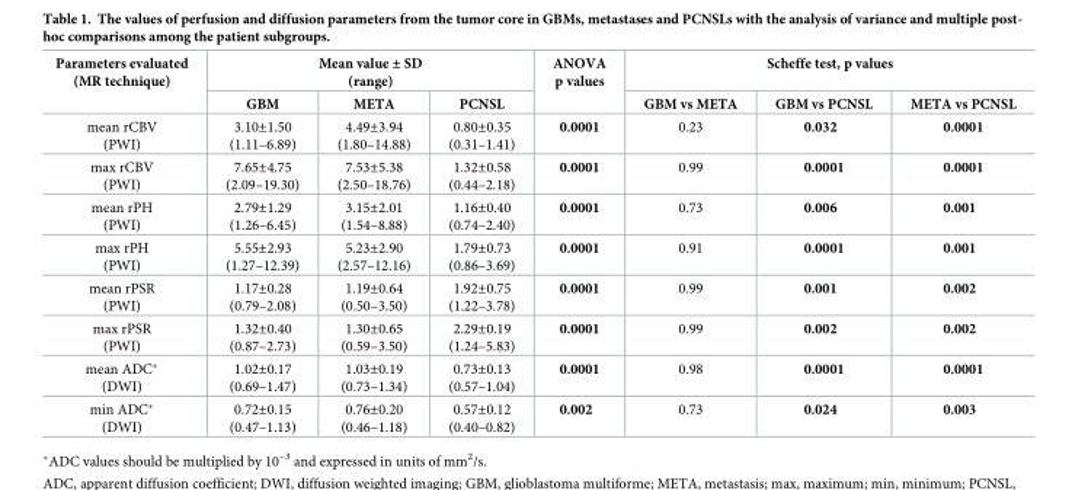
<table><thead><tr><td rowspan="2">Parameters evaluated (MR technique)</td><td colspan="3">Mean value ± SD (range)</td><td rowspan="2">ANOVA p values</td><td colspan="3">Scheffe test, p values</td></tr><tr><td>GBM</td><td>META</td><td>PCNSL</td><td>GBM vs META</td><td>GBM vs PCNSL</td><td>META vs PCNSL</td></tr></thead><tbody><tr><td>mean rCBV (PWI)</td><td>3.10±1.50 (1.11–6.89)</td><td>4.49±3.94 (1.80–14.88)</td><td>0.80±0.35 (0.31–1.41)</td><td>0.0001</td><td>0.23</td><td>0.032</td><td>0.0001</td></tr><tr><td>max rCBV (PWI)</td><td>7.65±4.75 (2.09–19.30)</td><td>7.53±5.38 (2.50–18.76)</td><td>1.32±0.58 (0.44–2.18)</td><td>0.0001</td><td>0.99</td><td>0.0001</td><td>0.0001</td></tr><tr><td>mean rPH (PWI)</td><td>2.79±1.29 (1.26–6.45)</td><td>3.15±2.01 (1.54–8.88)</td><td>1.16±0.40 (0.74–2.40)</td><td>0.0001</td><td>0.73</td><td>0.006</td><td>0.001</td></tr><tr><td>max rPH (PWI)</td><td>5.55±2.93 (1.27–12.39)</td><td>5.23±2.90 (2.57–12.16)</td><td>1.79±0.73 (0.86–3.69)</td><td>0.0001</td><td>0.91</td><td>0.0001</td><td>0.001</td></tr><tr><td>mean rPSR (PWI)</td><td>1.17±0.28 (0.79–2.08)</td><td>1.19±0.64 (0.50–3.50)</td><td>1.92±0.75 (1.22–3.78)</td><td>0.0001</td><td>0.99</td><td>0.001</td><td>0.002</td></tr><tr><td>max rPSR (PWI)</td><td>1.32±0.40 (0.87–2.73)</td><td>1.30±0.65 (0.59–3.50)</td><td>2.29±0.19 (1.24–5.83)</td><td>0.0001</td><td>0.99</td><td>0.002</td><td>0.002</td></tr><tr><td>mean ADC* (DWI)</td><td>1.02±0.17 (0.69–1.47)</td><td>1.03±0.19 (0.73–1.34)</td><td>0.73±0.13 (0.57–1.04)</td><td>0.0001</td><td>0.98</td><td>0.0001</td><td>0.0001</td></tr><tr><td>min ADC* (DWI)</td><td>0.72±0.15 (0.47–1.13)</td><td>0.76±0.20 (0.46–1.18)</td><td>0.57±0.12 (0.40–0.82)</td><td>0.002</td><td>0.73</td><td>0.024</td><td>0.003</td></tr></tbody></table>